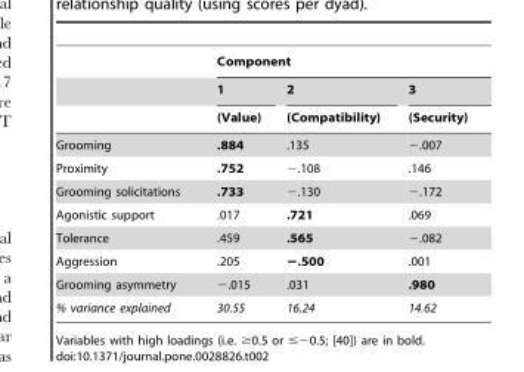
<table><thead><tr><td rowspan="3"></td><td colspan="3">Component</td></tr><tr><td rowspan="2">1 (Value)</td><td rowspan="2">2 (Compatibility)</td><td rowspan="2">3 (Security)</td></tr><tr></tr></thead><tbody><tr><td>Grooming</td><td>.884</td><td>.135</td><td>−.007</td></tr><tr><td>Proximity</td><td>.752</td><td>−.108</td><td>.146</td></tr><tr><td>Grooming solicitations</td><td>.733</td><td>−.130</td><td>−.172</td></tr><tr><td>Agonistic support</td><td>.017</td><td>.721</td><td>.069</td></tr><tr><td>Tolerance</td><td>.459</td><td>.565</td><td>−.082</td></tr><tr><td>Aggression</td><td>.205</td><td>−.500</td><td>.001</td></tr><tr><td>Grooming asymmetry</td><td>−.015</td><td>.031</td><td>.980</td></tr><tr><td>% variance explained</td><td>30.55</td><td>16.24</td><td>14.62</td></tr></tbody></table>